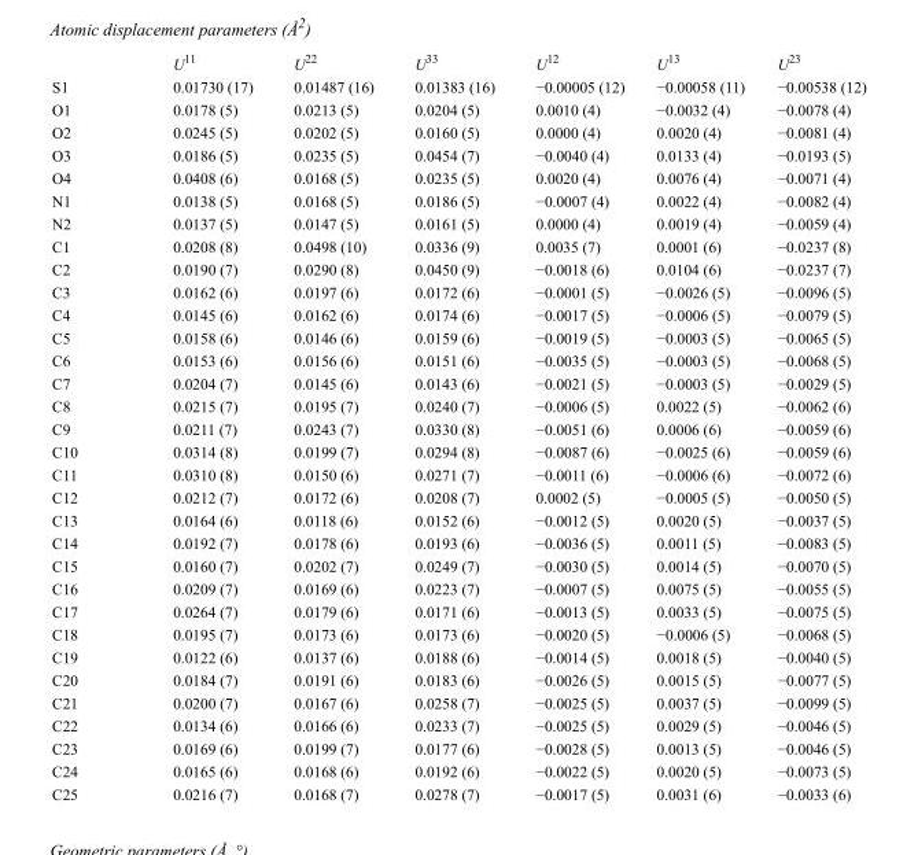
<table><thead><tr><td></td><td>U<sup>11</sup></td><td>U<sup>22</sup></td><td>U<sup>33</sup></td><td>U<sup>12</sup></td><td>U<sup>13</sup></td><td>U<sup>23</sup></td></tr></thead><tbody><tr><td>S1</td><td>0.01730 (17)</td><td>0.01487 (16)</td><td>0.01383 (16)</td><td>−0.00005 (12)</td><td>−0.00058 (11)</td><td>−0.00538 (12)</td></tr><tr><td>O1</td><td>0.0178 (5)</td><td>0.0213 (5)</td><td>0.0204 (5)</td><td>0.0010 (4)</td><td>−0.0032 (4)</td><td>−0.0078 (4)</td></tr><tr><td>O2</td><td>0.0245 (5)</td><td>0.0202 (5)</td><td>0.0160 (5)</td><td>0.0000 (4)</td><td>0.0020 (4)</td><td>−0.0081 (4)</td></tr><tr><td>O3</td><td>0.0186 (5)</td><td>0.0235 (5)</td><td>0.0454 (7)</td><td>−0.0040 (4)</td><td>0.0133 (4)</td><td>−0.0193 (5)</td></tr><tr><td>O4</td><td>0.0408 (6)</td><td>0.0168 (5)</td><td>0.0235 (5)</td><td>0.0020 (4)</td><td>0.0076 (4)</td><td>−0.0071 (4)</td></tr><tr><td>N1</td><td>0.0138 (5)</td><td>0.0168 (5)</td><td>0.0186 (5)</td><td>−0.0007 (4)</td><td>0.0022 (4)</td><td>−0.0082 (4)</td></tr><tr><td>N2</td><td>0.0137 (5)</td><td>0.0147 (5)</td><td>0.0161 (5)</td><td>0.0000 (4)</td><td>0.0019 (4)</td><td>−0.0059 (4)</td></tr><tr><td>C1</td><td>0.0208 (8)</td><td>0.0498 (10)</td><td>0.0336 (9)</td><td>0.0035 (7)</td><td>0.0001 (6)</td><td>−0.0237 (8)</td></tr><tr><td>C2</td><td>0.0190 (7)</td><td>0.0290 (8)</td><td>0.0450 (9)</td><td>−0.0018 (6)</td><td>0.0104 (6)</td><td>−0.0237 (7)</td></tr><tr><td>C3</td><td>0.0162 (6)</td><td>0.0197 (6)</td><td>0.0172 (6)</td><td>−0.0001 (5)</td><td>−0.0026 (5)</td><td>−0.0096 (5)</td></tr><tr><td>C4</td><td>0.0145 (6)</td><td>0.0162 (6)</td><td>0.0174 (6)</td><td>−0.0017 (5)</td><td>−0.0006 (5)</td><td>−0.0079 (5)</td></tr><tr><td>C5</td><td>0.0158 (6)</td><td>0.0146 (6)</td><td>0.0159 (6)</td><td>−0.0019 (5)</td><td>−0.0003 (5)</td><td>−0.0065 (5)</td></tr><tr><td>C6</td><td>0.0153 (6)</td><td>0.0156 (6)</td><td>0.0151 (6)</td><td>−0.0035 (5)</td><td>−0.0003 (5)</td><td>−0.0068 (5)</td></tr><tr><td>C7</td><td>0.0204 (7)</td><td>0.0145 (6)</td><td>0.0143 (6)</td><td>−0.0021 (5)</td><td>−0.0003 (5)</td><td>−0.0029 (5)</td></tr><tr><td>C8</td><td>0.0215 (7)</td><td>0.0195 (7)</td><td>0.0240 (7)</td><td>−0.0006 (5)</td><td>0.0022 (5)</td><td>−0.0062 (6)</td></tr><tr><td>C9</td><td>0.0211 (7)</td><td>0.0243 (7)</td><td>0.0330 (8)</td><td>−0.0051 (6)</td><td>0.0006 (6)</td><td>−0.0059 (6)</td></tr><tr><td>C10</td><td>0.0314 (8)</td><td>0.0199 (7)</td><td>0.0294 (8)</td><td>−0.0087 (6)</td><td>−0.0025 (6)</td><td>−0.0059 (6)</td></tr><tr><td>C11</td><td>0.0310 (8)</td><td>0.0150 (6)</td><td>0.0271 (7)</td><td>−0.0011 (6)</td><td>−0.0006 (6)</td><td>−0.0072 (6)</td></tr><tr><td>C12</td><td>0.0212 (7)</td><td>0.0172 (6)</td><td>0.0208 (7)</td><td>0.0002 (5)</td><td>−0.0005 (5)</td><td>−0.0050 (5)</td></tr><tr><td>C13</td><td>0.0164 (6)</td><td>0.0118 (6)</td><td>0.0152 (6)</td><td>−0.0012 (5)</td><td>0.0020 (5)</td><td>−0.0037 (5)</td></tr><tr><td>C14</td><td>0.0192 (7)</td><td>0.0178 (6)</td><td>0.0193 (6)</td><td>−0.0036 (5)</td><td>0.0011 (5)</td><td>−0.0083 (5)</td></tr><tr><td>C15</td><td>0.0160 (7)</td><td>0.0202 (7)</td><td>0.0249 (7)</td><td>−0.0030 (5)</td><td>0.0014 (5)</td><td>−0.0070 (5)</td></tr><tr><td>C16</td><td>0.0209 (7)</td><td>0.0169 (6)</td><td>0.0223 (7)</td><td>−0.0007 (5)</td><td>0.0075 (5)</td><td>−0.0055 (5)</td></tr><tr><td>C17</td><td>0.0264 (7)</td><td>0.0179 (6)</td><td>0.0171 (6)</td><td>−0.0013 (5)</td><td>0.0033 (5)</td><td>−0.0075 (5)</td></tr><tr><td>C18</td><td>0.0195 (7)</td><td>0.0173 (6)</td><td>0.0173 (6)</td><td>−0.0020 (5)</td><td>−0.0006 (5)</td><td>−0.0068 (5)</td></tr><tr><td>C19</td><td>0.0122 (6)</td><td>0.0137 (6)</td><td>0.0188 (6)</td><td>−0.0014 (5)</td><td>0.0018 (5)</td><td>−0.0040 (5)</td></tr><tr><td>C20</td><td>0.0184 (7)</td><td>0.0191 (6)</td><td>0.0183 (6)</td><td>−0.0026 (5)</td><td>0.0015 (5)</td><td>−0.0077 (5)</td></tr><tr><td>C21</td><td>0.0200 (7)</td><td>0.0167 (6)</td><td>0.0258 (7)</td><td>−0.0025 (5)</td><td>0.0037 (5)</td><td>−0.0099 (5)</td></tr><tr><td>C22</td><td>0.0134 (6)</td><td>0.0166 (6)</td><td>0.0233 (7)</td><td>−0.0025 (5)</td><td>0.0029 (5)</td><td>−0.0046 (5)</td></tr><tr><td>C23</td><td>0.0169 (6)</td><td>0.0199 (7)</td><td>0.0177 (6)</td><td>−0.0028 (5)</td><td>0.0013 (5)</td><td>−0.0046 (5)</td></tr><tr><td>C24</td><td>0.0165 (6)</td><td>0.0168 (6)</td><td>0.0192 (6)</td><td>−0.0022 (5)</td><td>0.0020 (5)</td><td>−0.0073 (5)</td></tr><tr><td>C25</td><td>0.0216 (7)</td><td>0.0168 (7)</td><td>0.0278 (7)</td><td>−0.0017 (5)</td><td>0.0031 (6)</td><td>−0.0033 (6)</td></tr></tbody></table>